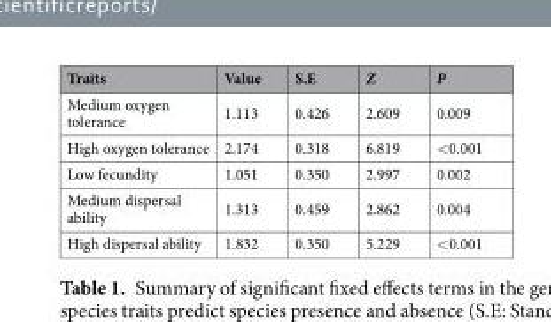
<table><thead><tr><td>Traits</td><td>Value</td><td>S.E</td><td>Z</td><td>P</td></tr></thead><tbody><tr><td>Medium oxygen tolerance</td><td>1.113</td><td>0.426</td><td>2.609</td><td>0.009</td></tr><tr><td>High oxygen tolerance</td><td>2.174</td><td>0.318</td><td>6.819</td><td>&lt;0.001</td></tr><tr><td>Low fecundity</td><td>1.051</td><td>0.350</td><td>2.997</td><td>0.002</td></tr><tr><td>Medium dispersal ability</td><td>1.313</td><td>0.459</td><td>2.862</td><td>0.004</td></tr><tr><td>High dispersal ability</td><td>1.832</td><td>0.350</td><td>5.229</td><td>&lt;0.001</td></tr></tbody></table>